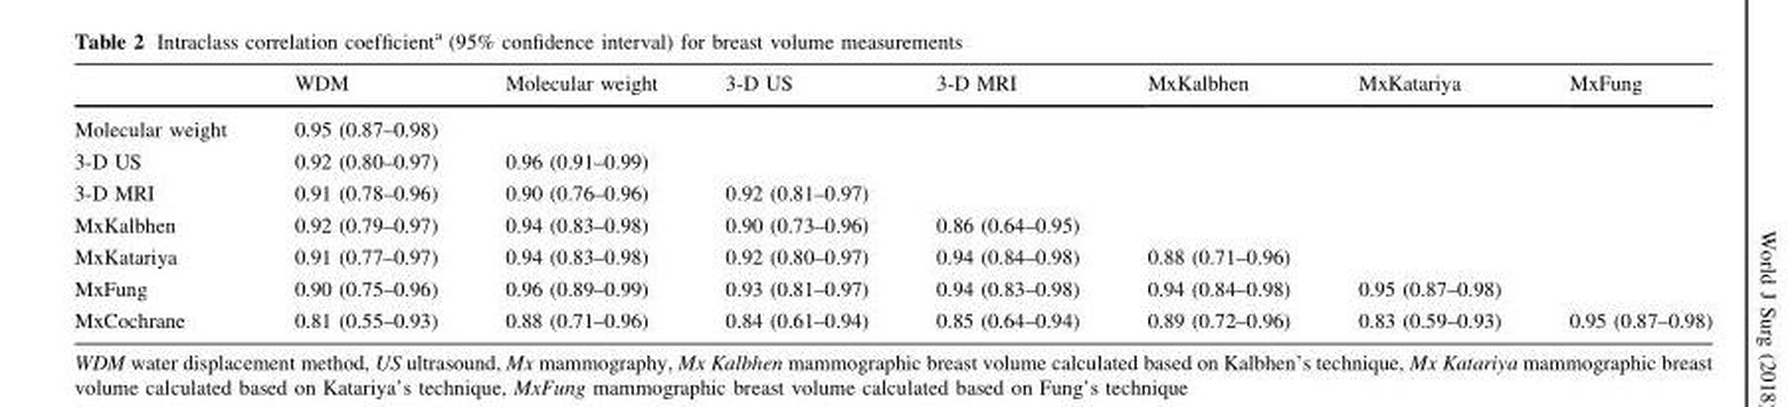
<table><thead><tr><td></td><td>WDM</td><td>Molecular weight</td><td>3-D US</td><td>3-D MRI</td><td>MxKalbhen</td><td>MxKatariya</td><td>MxFung</td></tr></thead><tbody><tr><td>Molecular weight</td><td>0.95 (0.87–0.98)</td><td></td><td></td><td></td><td></td><td></td><td></td></tr><tr><td>3-D US</td><td>0.92 (0.80–0.97)</td><td>0.96 (0.91–0.99)</td><td></td><td></td><td></td><td></td><td></td></tr><tr><td>3-D MRI</td><td>0.91 (0.78–0.96)</td><td>0.90 (0.76–0.96)</td><td>0.92 (0.81–0.97)</td><td></td><td></td><td></td><td></td></tr><tr><td>MxKalbhen</td><td>0.92 (0.79–0.97)</td><td>0.94 (0.83–0.98)</td><td>0.90 (0.73–0.96)</td><td>0.86 (0.64–0.95)</td><td></td><td></td><td></td></tr><tr><td>MxKatariya</td><td>0.91 (0.77–0.97)</td><td>0.94 (0.83–0.98)</td><td>0.92 (0.80–0.97)</td><td>0.94 (0.84–0.98)</td><td>0.88 (0.71–0.96)</td><td></td><td></td></tr><tr><td>MxFung</td><td>0.90 (0.75–0.96)</td><td>0.96 (0.89–0.99)</td><td>0.93 (0.81–0.97)</td><td>0.94 (0.83–0.98)</td><td>0.94 (0.84–0.98)</td><td>0.95 (0.87–0.98)</td><td></td></tr><tr><td>MxCochrane</td><td>0.81 (0.55–0.93)</td><td>0.88 (0.71–0.96)</td><td>0.84 (0.61–0.94)</td><td>0.85 (0.64–0.94)</td><td>0.89 (0.72–0.96)</td><td>0.83 (0.59–0.93)</td><td>0.95 (0.87–0.98)</td></tr></tbody></table>